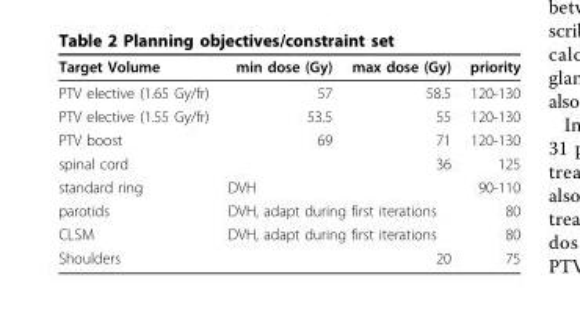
<table><thead><tr><td>Target Volume</td><td>min dose (Gy)</td><td>max dose (Gy)</td><td>priority</td></tr></thead><tbody><tr><td>PTV elective (1.65 Gy/fr)</td><td>57</td><td>58.5</td><td>120-130</td></tr><tr><td>PTV elective (1.55 Gy/fr)</td><td>53.5</td><td>55</td><td>120-130</td></tr><tr><td>PTV boost</td><td>69</td><td>71</td><td>120-130</td></tr><tr><td>spinal cord</td><td></td><td>36</td><td>125</td></tr><tr><td>standard ring</td><td colspan="2">DVH</td><td>90-110</td></tr><tr><td>parotids</td><td colspan="2">DVH, adapt during first iterations</td><td>80</td></tr><tr><td>CLSM</td><td colspan="2">DVH, adapt during first iterations</td><td>80</td></tr><tr><td>Shoulders</td><td></td><td>20</td><td>75</td></tr></tbody></table>